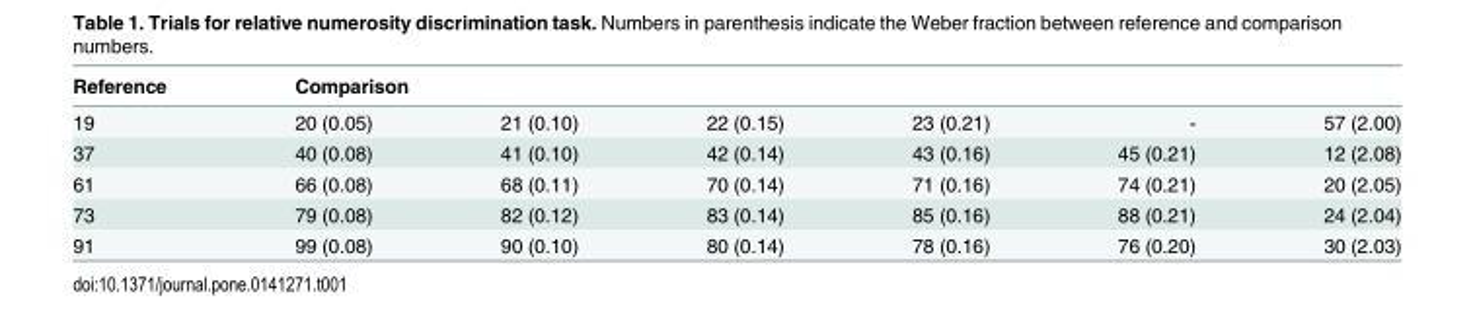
<table><thead><tr><td rowspan="2">Reference 19</td><td colspan="6">Comparison</td></tr><tr><td>20 (0.05)</td><td>21 (0.10)</td><td>22 (0.15)</td><td>23 (0.21)</td><td>-</td><td>57 (2.00)</td></tr></thead><tbody><tr><td>37</td><td>40 (0.08)</td><td>41 (0.10)</td><td>42 (0.14)</td><td>43 (0.16)</td><td>45 (0.21)</td><td>12 (2.08)</td></tr><tr><td>61</td><td>66 (0.08)</td><td>68 (0.11)</td><td>70 (0.14)</td><td>71 (0.16)</td><td>74 (0.21)</td><td>20 (2.05)</td></tr><tr><td>73</td><td>79 (0.08)</td><td>82 (0.12)</td><td>83 (0.14)</td><td>85 (0.16)</td><td>88 (0.21)</td><td>24 (2.04)</td></tr><tr><td>91</td><td>99 (0.08)</td><td>90 (0.10)</td><td>80 (0.14)</td><td>78 (0.16)</td><td>76 (0.20)</td><td>30 (2.03)</td></tr></tbody></table>